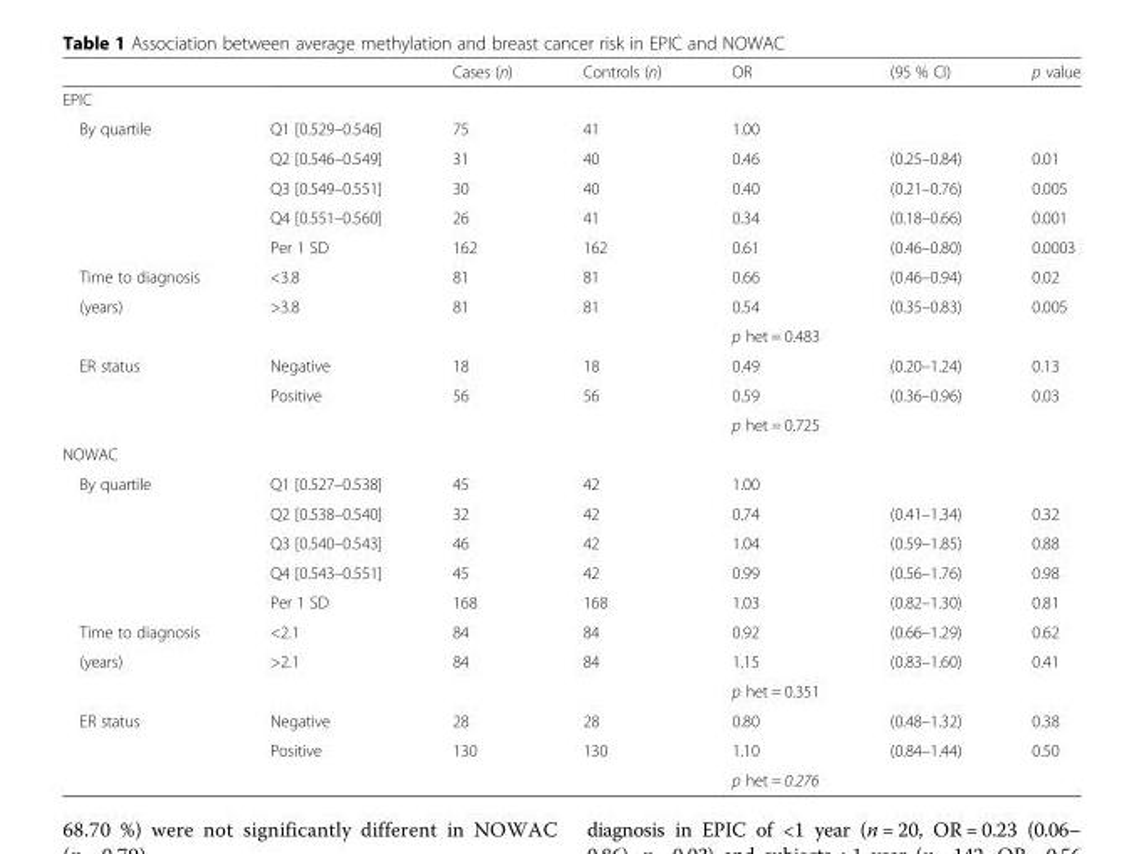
<table><thead><tr><td></td><td></td><td>Cases (n)</td><td>Controls (n)</td><td>OR</td><td>(95 % CI)</td><td>p value</td></tr></thead><tbody><tr><td colspan="7">EPIC</td></tr><tr><td rowspan="5">By quartile</td><td>Q1 [0.529–0.546]</td><td>75</td><td>41</td><td>1.00</td><td></td><td></td></tr><tr><td>Q2 [0.546–0.549]</td><td>31</td><td>40</td><td>0.46</td><td>(0.25–0.84)</td><td>0.01</td></tr><tr><td>Q3 [0.549–0.551]</td><td>30</td><td>40</td><td>0.40</td><td>(0.21–0.76)</td><td>0.005</td></tr><tr><td>Q4 [0.551–0.560]</td><td>26</td><td>41</td><td>0.34</td><td>(0.18–0.66)</td><td>0.001</td></tr><tr><td>Per 1 SD</td><td>162</td><td>162</td><td>0.61</td><td>(0.46–0.80)</td><td>0.0003</td></tr><tr><td>Time to diagnosis</td><td>&lt;3.8</td><td>81</td><td>81</td><td>0.66</td><td>(0.46–0.94)</td><td>0.02</td></tr><tr><td rowspan="2">(years)</td><td>&gt;3.8</td><td>81</td><td>81</td><td>0.54</td><td>(0.35–0.83)</td><td>0.005</td></tr><tr><td></td><td></td><td></td><td>p het = 0.483</td><td></td><td></td></tr><tr><td rowspan="3">ER status</td><td>Negative</td><td>18</td><td>18</td><td>0.49</td><td>(0.20–1.24)</td><td>0.13</td></tr><tr><td>Positive</td><td>56</td><td>56</td><td>0.59</td><td>(0.36–0.96)</td><td>0.03</td></tr><tr><td></td><td></td><td></td><td>p het = 0.725</td><td></td><td></td></tr><tr><td colspan="7">NOWAC</td></tr><tr><td rowspan="5">By quartile</td><td>Q1 [0.527–0.538]</td><td>45</td><td>42</td><td>1.00</td><td></td><td></td></tr><tr><td>Q2 [0.538–0.540]</td><td>32</td><td>42</td><td>0.74</td><td>(0.41–1.34)</td><td>0.32</td></tr><tr><td>Q3 [0.540–0.543]</td><td>46</td><td>42</td><td>1.04</td><td>(0.59–1.85)</td><td>0.88</td></tr><tr><td>Q4 [0.543–0.551]</td><td>45</td><td>42</td><td>0.99</td><td>(0.56–1.76)</td><td>0.98</td></tr><tr><td>Per 1 SD</td><td>168</td><td>168</td><td>1.03</td><td>(0.82–1.30)</td><td>0.81</td></tr><tr><td>Time to diagnosis</td><td>&lt;2.1</td><td>84</td><td>84</td><td>0.92</td><td>(0.66–1.29)</td><td>0.62</td></tr><tr><td rowspan="2">(years)</td><td>&gt;2.1</td><td>84</td><td>84</td><td>1.15</td><td>(0.83–1.60)</td><td>0.41</td></tr><tr><td></td><td></td><td></td><td>p het = 0.351</td><td></td><td></td></tr><tr><td rowspan="3">ER status</td><td>Negative</td><td>28</td><td>28</td><td>0.80</td><td>(0.48–1.32)</td><td>0.38</td></tr><tr><td>Positive</td><td>130</td><td>130</td><td>1.10</td><td>(0.84–1.44)</td><td>0.50</td></tr><tr><td></td><td></td><td></td><td>p het = 0.276</td><td></td><td></td></tr></tbody></table>